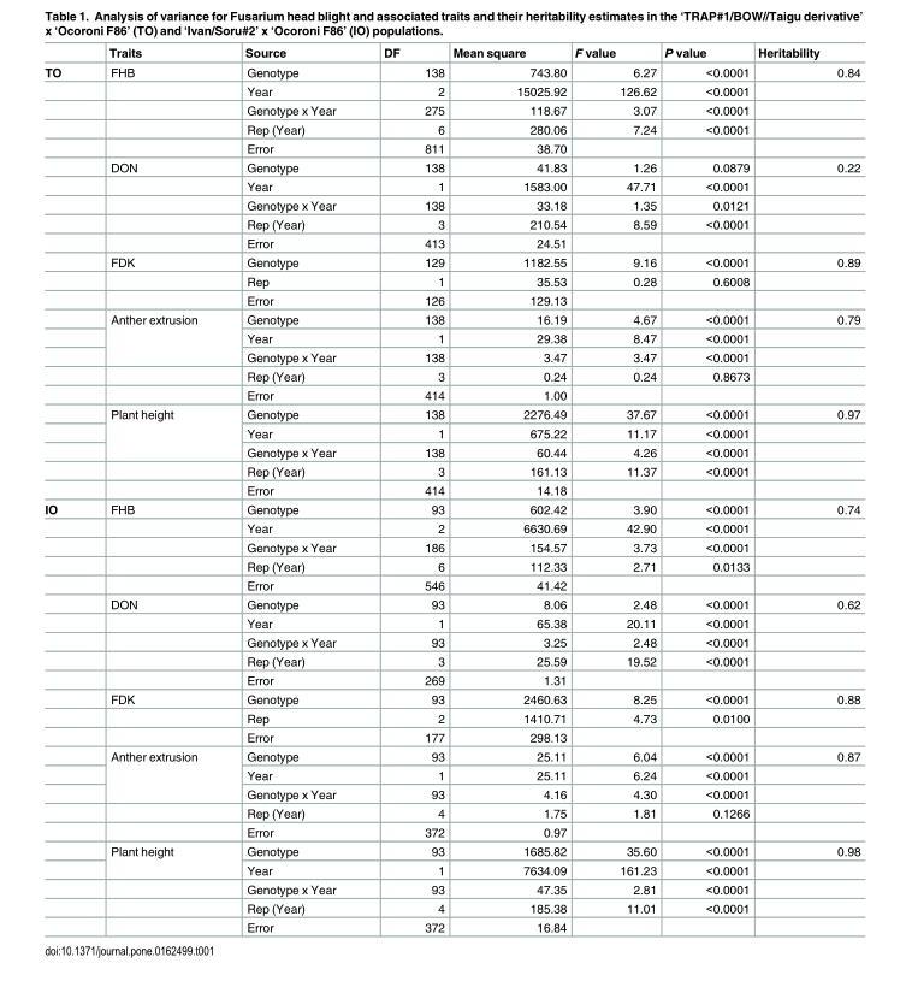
<table><thead><tr><td></td><td>Traits</td><td>Source</td><td>DF</td><td>Mean square</td><td>F value</td><td>P value</td><td>Heritability</td></tr></thead><tbody><tr><td rowspan="23">TO</td><td>FHB</td><td>Genotype</td><td>138</td><td>743.80</td><td>6.27</td><td>&lt;0.0001</td><td>0.84</td></tr><tr><td></td><td>Year</td><td>2</td><td>15025.92</td><td>126.62</td><td>&lt;0.0001</td><td></td></tr><tr><td></td><td>Genotype x Year</td><td>275</td><td>118.67</td><td>3.07</td><td>&lt;0.0001</td><td></td></tr><tr><td></td><td>Rep (Year)</td><td>6</td><td>280.06</td><td>7.24</td><td>&lt;0.0001</td><td></td></tr><tr><td></td><td>Error</td><td>811</td><td>38.70</td><td></td><td></td><td></td></tr><tr><td>DON</td><td>Genotype</td><td>138</td><td>41.83</td><td>1.26</td><td>0.0879</td><td>0.22</td></tr><tr><td></td><td>Year</td><td>1</td><td>1583.00</td><td>47.71</td><td>&lt;0.0001</td><td></td></tr><tr><td></td><td>Genotype x Year</td><td>138</td><td>33.18</td><td>1.35</td><td>0.0121</td><td></td></tr><tr><td></td><td>Rep (Year)</td><td>3</td><td>210.54</td><td>8.59</td><td>&lt;0.0001</td><td></td></tr><tr><td></td><td>Error</td><td>413</td><td>24.51</td><td></td><td></td><td></td></tr><tr><td>FDK</td><td>Genotype</td><td>129</td><td>1182.55</td><td>9.16</td><td>&lt;0.0001</td><td>0.89</td></tr><tr><td></td><td>Rep</td><td>1</td><td>35.53</td><td>0.28</td><td>0.6008</td><td></td></tr><tr><td></td><td>Error</td><td>126</td><td>129.13</td><td></td><td></td><td></td></tr><tr><td rowspan="3">Anther extrusion</td><td>Genotype</td><td>138</td><td>16.19</td><td>4.67</td><td>&lt;0.0001</td><td>0.79</td></tr><tr><td>Year</td><td>1</td><td>29.38</td><td>8.47</td><td>&lt;0.0001</td><td></td></tr><tr><td>Genotype x Year</td><td>138</td><td>3.47</td><td>3.47</td><td>&lt;0.0001</td><td></td></tr><tr><td></td><td>Rep (Year)</td><td>3</td><td>0.24</td><td>0.24</td><td>0.8673</td><td></td></tr><tr><td></td><td>Error</td><td>414</td><td>1.00</td><td></td><td></td><td></td></tr><tr><td rowspan="3">Plant height</td><td>Genotype</td><td>138</td><td>2276.49</td><td>37.67</td><td>&lt;0.0001</td><td>0.97</td></tr><tr><td>Year</td><td>1</td><td>675.22</td><td>11.17</td><td>&lt;0.0001</td><td></td></tr><tr><td>Genotype x Year</td><td>138</td><td>60.44</td><td>4.26</td><td>&lt;0.0001</td><td></td></tr><tr><td></td><td>Rep (Year)</td><td>3</td><td>161.13</td><td>11.37</td><td>&lt;0.0001</td><td></td></tr><tr><td></td><td>Error</td><td>414</td><td>14.18</td><td></td><td></td><td></td></tr><tr><td rowspan="23">IO</td><td>FHB</td><td>Genotype</td><td>93</td><td>602.42</td><td>3.90</td><td>&lt;0.0001</td><td>0.74</td></tr><tr><td></td><td>Year</td><td>2</td><td>6630.69</td><td>42.90</td><td>&lt;0.0001</td><td></td></tr><tr><td></td><td>Genotype x Year</td><td>186</td><td>154.57</td><td>3.73</td><td>&lt;0.0001</td><td></td></tr><tr><td></td><td>Rep (Year)</td><td>6</td><td>112.33</td><td>2.71</td><td>0.0133</td><td></td></tr><tr><td></td><td>Error</td><td>546</td><td>41.42</td><td></td><td></td><td></td></tr><tr><td>DON</td><td>Genotype</td><td>93</td><td>8.06</td><td>2.48</td><td>&lt;0.0001</td><td>0.62</td></tr><tr><td></td><td>Year</td><td>1</td><td>65.38</td><td>20.11</td><td>&lt;0.0001</td><td></td></tr><tr><td></td><td>Genotype x Year</td><td>93</td><td>3.25</td><td>2.48</td><td>&lt;0.0001</td><td></td></tr><tr><td></td><td>Rep (Year)</td><td>3</td><td>25.59</td><td>19.52</td><td>&lt;0.0001</td><td></td></tr><tr><td></td><td>Error</td><td>269</td><td>1.31</td><td></td><td></td><td></td></tr><tr><td>FDK</td><td>Genotype</td><td>93</td><td>2460.63</td><td>8.25</td><td>&lt;0.0001</td><td>0.88</td></tr><tr><td></td><td>Rep</td><td>2</td><td>1410.71</td><td>4.73</td><td>0.0100</td><td></td></tr><tr><td></td><td>Error</td><td>177</td><td>298.13</td><td></td><td></td><td></td></tr><tr><td rowspan="3">Anther extrusion</td><td>Genotype</td><td>93</td><td>25.11</td><td>6.04</td><td>&lt;0.0001</td><td>0.87</td></tr><tr><td>Year</td><td>1</td><td>25.11</td><td>6.24</td><td>&lt;0.0001</td><td></td></tr><tr><td>Genotype x Year</td><td>93</td><td>4.16</td><td>4.30</td><td>&lt;0.0001</td><td></td></tr><tr><td></td><td>Rep (Year)</td><td>4</td><td>1.75</td><td>1.81</td><td>0.1266</td><td></td></tr><tr><td></td><td>Error</td><td>372</td><td>0.97</td><td></td><td></td><td></td></tr><tr><td rowspan="2">Plant height</td><td>Genotype</td><td>93</td><td>1685.82</td><td>35.60</td><td>&lt;0.0001</td><td>0.98</td></tr><tr><td>Year</td><td>1</td><td>7634.09</td><td>161.23</td><td>&lt;0.0001</td><td></td></tr><tr><td></td><td>Genotype x Year</td><td>93</td><td>47.35</td><td>2.81</td><td>&lt;0.0001</td><td></td></tr><tr><td></td><td>Rep (Year)</td><td>4</td><td>185.38</td><td>11.01</td><td>&lt;0.0001</td><td></td></tr><tr><td></td><td>Error</td><td>372</td><td>16.84</td><td></td><td></td><td></td></tr></tbody></table>